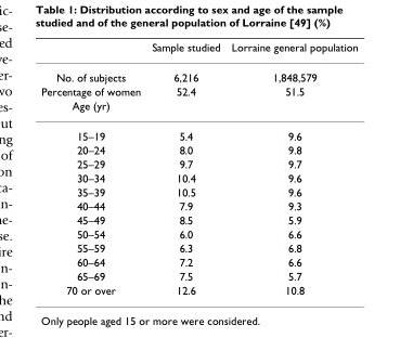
<table><thead><tr><td></td><td>Sample studied</td><td>Lorraine general population</td></tr></thead><tbody><tr><td>No. of subjects</td><td>6,216</td><td>1,848,579</td></tr><tr><td>Percentage of women</td><td>52.4</td><td>51.5</td></tr><tr><td colspan="3">Age (yr)</td></tr><tr><td>15–19</td><td>5.4</td><td>9.6</td></tr><tr><td>20–24</td><td>8.0</td><td>9.8</td></tr><tr><td>25–29</td><td>9.7</td><td>9.7</td></tr><tr><td>30–34</td><td>10.4</td><td>9.6</td></tr><tr><td>35–39</td><td>10.5</td><td>9.6</td></tr><tr><td>40–44</td><td>7.9</td><td>9.3</td></tr><tr><td>45–49</td><td>8.5</td><td>5.9</td></tr><tr><td>50–54</td><td>6.0</td><td>6.6</td></tr><tr><td>55–59</td><td>6.3</td><td>6.8</td></tr><tr><td>60–64</td><td>7.2</td><td>6.6</td></tr><tr><td>65–69</td><td>7.5</td><td>5.7</td></tr><tr><td>70 or over</td><td>12.6</td><td>10.8</td></tr></tbody></table>